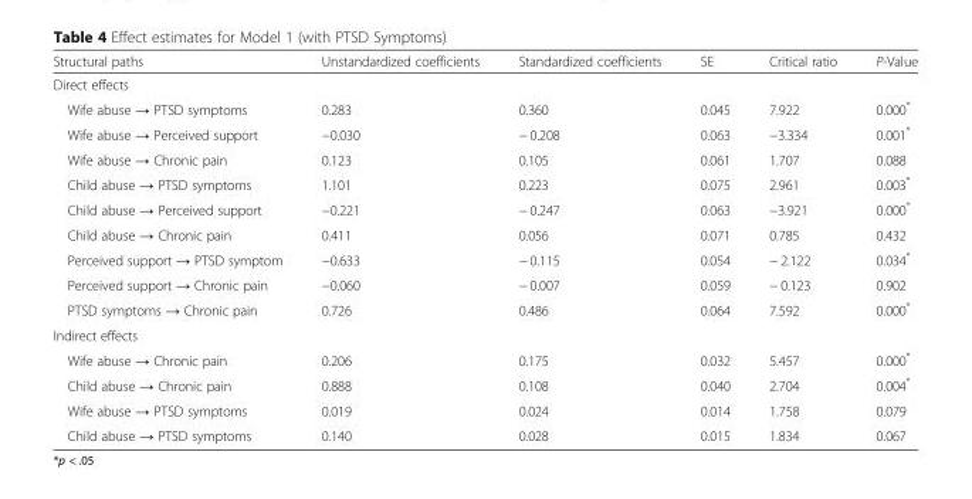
<table><thead><tr><td>Structural paths</td><td>Unstandardized coefficients</td><td>Standardized coefficients</td><td>SE</td><td>Critical ratio</td><td>P-Value</td></tr></thead><tbody><tr><td colspan="6">Direct effects</td></tr><tr><td>Wife abuse → PTSD symptoms</td><td>0.283</td><td>0.360</td><td>0.045</td><td>7.922</td><td>0.000*</td></tr><tr><td>Wife abuse → Perceived support</td><td>−0.030</td><td>− 0.208</td><td>0.063</td><td>−3.334</td><td>0.001*</td></tr><tr><td>Wife abuse → Chronic pain</td><td>0.123</td><td>0.105</td><td>0.061</td><td>1.707</td><td>0.088</td></tr><tr><td>Child abuse → PTSD symptoms</td><td>1.101</td><td>0.223</td><td>0.075</td><td>2.961</td><td>0.003*</td></tr><tr><td>Child abuse → Perceived support</td><td>−0.221</td><td>− 0.247</td><td>0.063</td><td>−3.921</td><td>0.000*</td></tr><tr><td>Child abuse → Chronic pain</td><td>0.411</td><td>0.056</td><td>0.071</td><td>0.785</td><td>0.432</td></tr><tr><td>Perceived support → PTSD symptom</td><td>−0.633</td><td>− 0.115</td><td>0.054</td><td>− 2.122</td><td>0.034*</td></tr><tr><td>Perceived support → Chronic pain</td><td>−0.060</td><td>− 0.007</td><td>0.059</td><td>− 0.123</td><td>0.902</td></tr><tr><td>PTSD symptoms → Chronic pain</td><td>0.726</td><td>0.486</td><td>0.064</td><td>7.592</td><td>0.000*</td></tr><tr><td colspan="6">Indirect effects</td></tr><tr><td>Wife abuse → Chronic pain</td><td>0.206</td><td>0.175</td><td>0.032</td><td>5.457</td><td>0.000*</td></tr><tr><td>Child abuse → Chronic pain</td><td>0.888</td><td>0.108</td><td>0.040</td><td>2.704</td><td>0.004*</td></tr><tr><td>Wife abuse → PTSD symptoms</td><td>0.019</td><td>0.024</td><td>0.014</td><td>1.758</td><td>0.079</td></tr><tr><td>Child abuse → PTSD symptoms</td><td>0.140</td><td>0.028</td><td>0.015</td><td>1.834</td><td>0.067</td></tr></tbody></table>